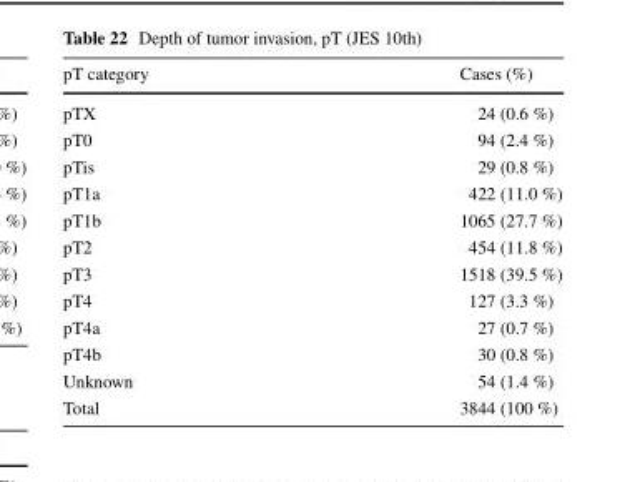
<table><thead><tr><td>pT category</td><td>Cases (%)</td></tr></thead><tbody><tr><td>pTX</td><td>24 (0.6 %)</td></tr><tr><td>pT0</td><td>94 (2.4 %)</td></tr><tr><td>pTis</td><td>29 (0.8 %)</td></tr><tr><td>pT1a</td><td>422 (11.0 %)</td></tr><tr><td>pT1b</td><td>1065 (27.7 %)</td></tr><tr><td>pT2</td><td>454 (11.8 %)</td></tr><tr><td>pT3</td><td>1518 (39.5 %)</td></tr><tr><td>pT4</td><td>127 (3.3 %)</td></tr><tr><td>pT4a</td><td>27 (0.7 %)</td></tr><tr><td>pT4b</td><td>30 (0.8 %)</td></tr><tr><td>Unknown</td><td>54 (1.4 %)</td></tr><tr><td>Total</td><td>3844 (100 %)</td></tr></tbody></table>